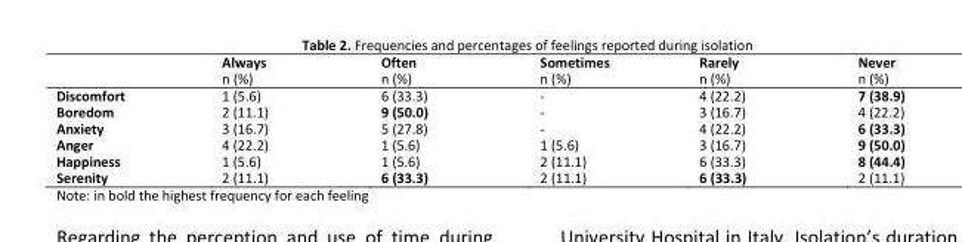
<table><thead><tr><td></td><td>Always n (%)</td><td>Often n (%)</td><td>Sometimes n (%)</td><td>Rarely n (%)</td><td>Never n (%)</td></tr></thead><tbody><tr><td>Discomfort</td><td>1 (5.6)</td><td>6 (33.3)</td><td>-</td><td>4 (22.2)</td><td>7 (38.9)</td></tr><tr><td>Boredom</td><td>2 (11.1)</td><td>9 (50.0)</td><td>-</td><td>3 (16.7)</td><td>4 (22.2)</td></tr><tr><td>Anxiety</td><td>3 (16.7)</td><td>5 (27.8)</td><td>-</td><td>4 (22.2)</td><td>6 (33.3)</td></tr><tr><td>Anger</td><td>4 (22.2)</td><td>1 (5.6)</td><td>1 (5.6)</td><td>3 (16.7)</td><td>9 (50.0)</td></tr><tr><td>Happiness</td><td>1 (5.6)</td><td>1 (5.6)</td><td>2 (11.1)</td><td>6 (33.3)</td><td>8 (44.4)</td></tr><tr><td>Serenity</td><td>2 (11.1)</td><td>6 (33.3)</td><td>2 (11.1)</td><td>6 (33.3)</td><td>2 (11.1)</td></tr></tbody></table>